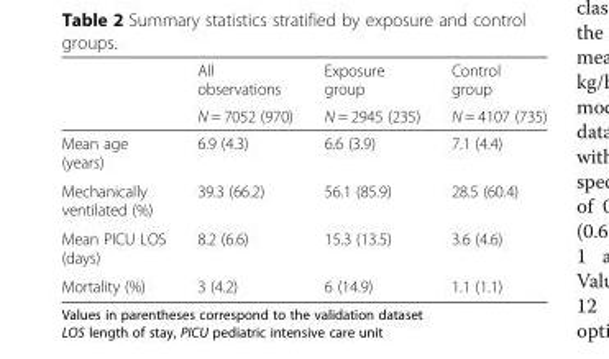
<table><thead><tr><td rowspan="2"></td><td rowspan="2">All observations N = 7052 (970)</td><td rowspan="2">Exposure group N = 2945 (235)</td><td rowspan="2">Control group N = 4107 (735)</td></tr><tr></tr></thead><tbody><tr><td>Mean age (years)</td><td>6.9 (4.3)</td><td>6.6 (3.9)</td><td>7.1 (4.4)</td></tr><tr><td>Mechanically ventilated (%)</td><td>39.3 (66.2)</td><td>56.1 (85.9)</td><td>28.5 (60.4)</td></tr><tr><td>Mean PICU LOS (days)</td><td>8.2 (6.6)</td><td>15.3 (13.5)</td><td>3.6 (4.6)</td></tr><tr><td>Mortality (%)</td><td>3 (4.2)</td><td>6 (14.9)</td><td>1.1 (1.1)</td></tr></tbody></table>